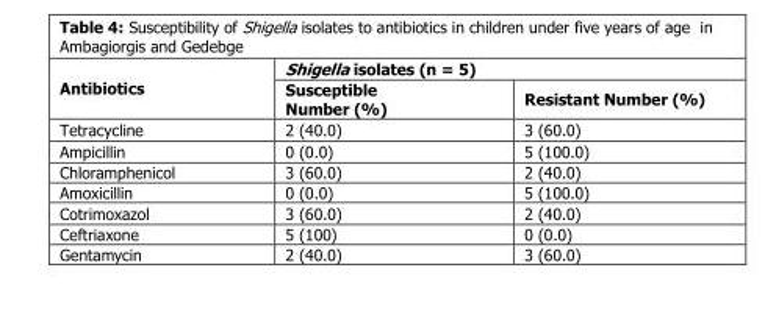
<table><thead><tr><td rowspan="2">Antibiotics</td><td colspan="2">Shigella isolates (n = 5)</td></tr><tr><td>Susceptible Number (%)</td><td>Resistant Number (%)</td></tr></thead><tbody><tr><td>Tetracycline</td><td>2 (40.0)</td><td>3 (60.0)</td></tr><tr><td>Ampicillin</td><td>0 (0.0)</td><td>5 (100.0)</td></tr><tr><td>Chloramphenicol</td><td>3 (60.0)</td><td>2 (40.0)</td></tr><tr><td>Amoxicillin</td><td>0 (0.0)</td><td>5 (100.0)</td></tr><tr><td>Cotrimoxazol</td><td>3 (60.0)</td><td>2 (40.0)</td></tr><tr><td>Ceftriaxone</td><td>5 (100)</td><td>0 (0.0)</td></tr><tr><td>Gentamycin</td><td>2 (40.0)</td><td>3 (60.0)</td></tr></tbody></table>